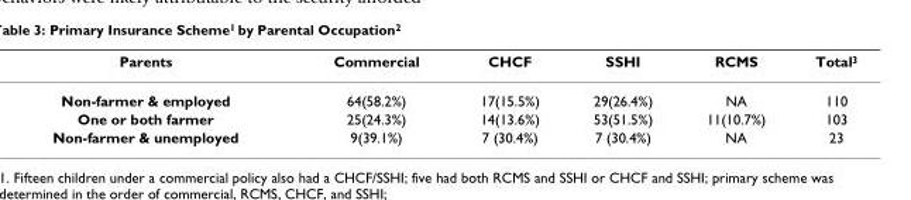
<table><thead><tr><td>Parents</td><td>Commercial</td><td>CHCF</td><td>SSHI</td><td>RCMS</td><td>Total<sup>3</sup></td></tr></thead><tbody><tr><td>Non-farmer &amp; employed</td><td>64(58.2%)</td><td>17(15.5%)</td><td>29(26.4%)</td><td>NA</td><td>110</td></tr><tr><td>One or both farmer</td><td>25(24.3%)</td><td>14(13.6%)</td><td>53(51.5%)</td><td>11(10.7%)</td><td>103</td></tr><tr><td>Non-farmer &amp; unemployed</td><td>9(39.1%)</td><td>7 (30.4%)</td><td>7 (30.4%)</td><td>NA</td><td>23</td></tr></tbody></table>